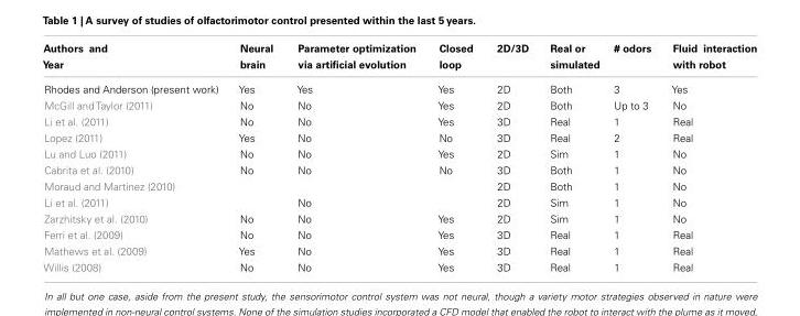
<table><thead><tr><td>Authors and Year</td><td>Neural brain</td><td>Parameter optimization via artificial evolution</td><td>Closed loop</td><td>2D/3D</td><td>Real or simulated</td><td># odors</td><td>Fluid interaction with robot</td></tr></thead><tbody><tr><td>Rhodes and Anderson (present work)</td><td>Yes</td><td>Yes</td><td>Yes</td><td>2D</td><td>Both</td><td>3</td><td>Yes</td></tr><tr><td>McGill and Taylor (2011)</td><td>No</td><td>No</td><td>Yes</td><td>2D</td><td>Both</td><td>Up to 3</td><td>No</td></tr><tr><td>Li et al. (2011)</td><td>No</td><td>No</td><td>Yes</td><td>3D</td><td>Real</td><td>1</td><td>Real</td></tr><tr><td>Lopez (2011)</td><td>Yes</td><td>No</td><td>No</td><td>3D</td><td>Real</td><td>2</td><td>Real</td></tr><tr><td>Lu and Luo (2011)</td><td>No</td><td>No</td><td>Yes</td><td>2D</td><td>Sim</td><td>1</td><td>No</td></tr><tr><td>Cabrita et al. (2010)</td><td>No</td><td>No</td><td>No</td><td>3D</td><td>Both</td><td>1</td><td>No</td></tr><tr><td>Moraud and Martinez (2010)</td><td></td><td></td><td></td><td>2D</td><td>Both</td><td>1</td><td>No</td></tr><tr><td>Li et al. (2011)</td><td></td><td>No</td><td></td><td>2D</td><td>Sim</td><td>1</td><td>No</td></tr><tr><td>Zarzhitsky et al. (2010)</td><td>No</td><td>No</td><td>Yes</td><td>2D</td><td>Sim</td><td>1</td><td>No</td></tr><tr><td>Ferri et al. (2009)</td><td>No</td><td>No</td><td>Yes</td><td>3D</td><td>Real</td><td>1</td><td>Real</td></tr><tr><td>Mathews et al. (2009)</td><td>Yes</td><td>No</td><td>Yes</td><td>3D</td><td>Real</td><td>1</td><td>Real</td></tr><tr><td>Willis (2008)</td><td>No</td><td>No</td><td>Yes</td><td>3D</td><td>Real</td><td>1</td><td>Real</td></tr></tbody></table>